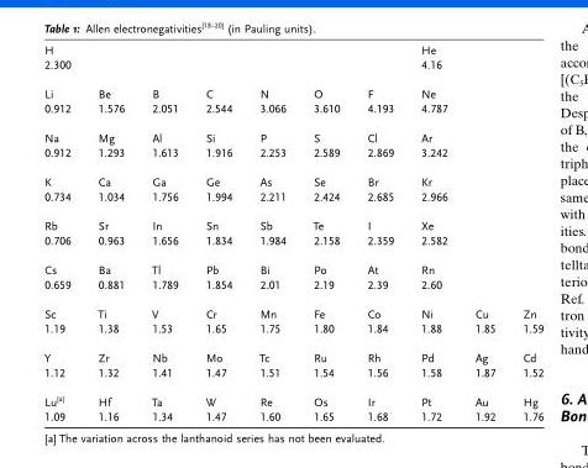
<table><tbody><tr><td>H 2.300</td><td></td><td></td><td></td><td></td><td></td><td></td><td>He 4.16</td><td></td><td></td></tr><tr><td>Li 0.912</td><td>Be 1.576</td><td>B 2.051</td><td>C 2.544</td><td>N 3.066</td><td>O 3.610</td><td>F 4.193</td><td>Ne 4.787</td><td></td><td></td></tr><tr><td>Na 0.912</td><td>Mg 1.293</td><td>Al 1.613</td><td>Si 1.916</td><td>P 2.253</td><td>S 2.589</td><td>Cl 2.869</td><td>Ar 3.242</td><td></td><td></td></tr><tr><td>K 0.734</td><td>Ca 1.034</td><td>Ga 1.756</td><td>Ge 1.994</td><td>As 2.211</td><td>Se 2.424</td><td>Br 2.685</td><td>Kr 2.966</td><td></td><td></td></tr><tr><td>Rb 0.706</td><td>Sr 0.963</td><td>In 1.656</td><td>Sn 1.834</td><td>Sb 1.984</td><td>Te 2.158</td><td>I 2.359</td><td>Xe 2.582</td><td></td><td></td></tr><tr><td>Cs 0.659</td><td>Ba 0.881</td><td>Tl 1.789</td><td>Pb 1.854</td><td>Bi 2.01</td><td>Po 2.19</td><td>At 2.39</td><td>Rn 2.60</td><td></td><td></td></tr><tr><td>Sc 1.19</td><td>Ti 1.38</td><td>V 1.53</td><td>Cr 1.65</td><td>Mn 1.75</td><td>Fe 1.80</td><td>Co 1.84</td><td>Ni 1.88</td><td>Cu 1.85</td><td>Zn 1.59</td></tr><tr><td>Y 1.12</td><td>Zr 1.32</td><td>Nb 1.41</td><td>Mo 1.47</td><td>Tc 1.51</td><td>Ru 1.54</td><td>Rh 1.56</td><td>Pd 1.58</td><td>Ag 1.87</td><td>Cd 1.52</td></tr><tr><td>Lu<sup>[a]</sup> 1.09</td><td>Hf 1.16</td><td>Ta 1.34</td><td>W 1.47</td><td>Re 1.60</td><td>Os 1.65</td><td>Ir 1.68</td><td>Pt 1.72</td><td>Au 1.92</td><td>Hg 1.76</td></tr></tbody></table>